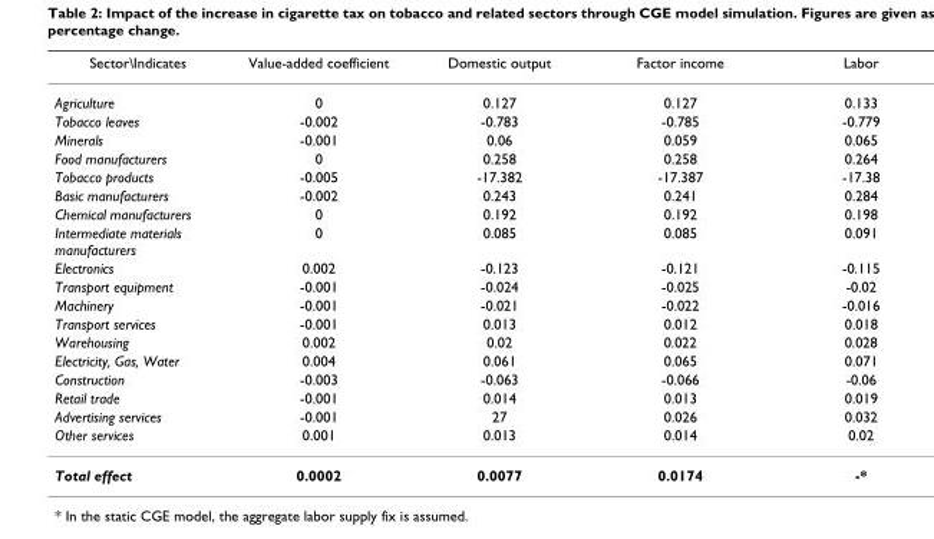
<table><thead><tr><td>Sector\Indicates</td><td>Value-added coefficient</td><td>Domestic output</td><td>Factor income</td><td>Labor</td></tr></thead><tbody><tr><td>Agriculture</td><td>0</td><td>0.127</td><td>0.127</td><td>0.133</td></tr><tr><td>Tobacco leaves</td><td>-0.002</td><td>-0.783</td><td>-0.785</td><td>-0.779</td></tr><tr><td>Minerals</td><td>-0.001</td><td>0.06</td><td>0.059</td><td>0.065</td></tr><tr><td>Food manufacturers</td><td>0</td><td>0.258</td><td>0.258</td><td>0.264</td></tr><tr><td>Tobacco products</td><td>-0.005</td><td>-17.382</td><td>-17.387</td><td>-17.38</td></tr><tr><td>Basic manufacturers</td><td>-0.002</td><td>0.243</td><td>0.241</td><td>0.284</td></tr><tr><td>Chemical manufacturers</td><td>0</td><td>0.192</td><td>0.192</td><td>0.198</td></tr><tr><td>Intermediate materials manufacturers</td><td>0</td><td>0.085</td><td>0.085</td><td>0.091</td></tr><tr><td>Electronics</td><td>0.002</td><td>-0.123</td><td>-0.121</td><td>-0.115</td></tr><tr><td>Transport equipment</td><td>-0.001</td><td>-0.024</td><td>-0.025</td><td>-0.02</td></tr><tr><td>Machinery</td><td>-0.001</td><td>-0.021</td><td>-0.022</td><td>-0.016</td></tr><tr><td>Transport services</td><td>-0.001</td><td>0.013</td><td>0.012</td><td>0.018</td></tr><tr><td>Warehousing</td><td>0.002</td><td>0.02</td><td>0.022</td><td>0.028</td></tr><tr><td>Electricity, Gas, Water</td><td>0.004</td><td>0.061</td><td>0.065</td><td>0.071</td></tr><tr><td>Construction</td><td>-0.003</td><td>-0.063</td><td>-0.066</td><td>-0.06</td></tr><tr><td>Retail trade</td><td>-0.001</td><td>0.014</td><td>0.013</td><td>0.019</td></tr><tr><td>Advertising services</td><td>-0.001</td><td>27</td><td>0.026</td><td>0.032</td></tr><tr><td>Other services</td><td>0.001</td><td>0.013</td><td>0.014</td><td>0.02</td></tr><tr><td>Total effect</td><td>0.0002</td><td>0.0077</td><td>0.0174</td><td>-*</td></tr></tbody></table>